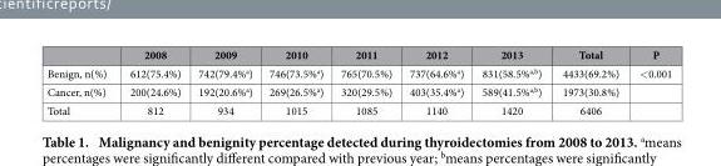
<table><thead><tr><td></td><td>2008</td><td>2009</td><td>2010</td><td>2011</td><td>2012</td><td>2013</td><td>Total</td><td>P</td></tr></thead><tbody><tr><td>Benign, n(%)</td><td>612(75.4%)</td><td>742(79.4%<sup>a</sup>)</td><td>746(73.5%<sup>a</sup>)</td><td>765(70.5%)</td><td>737(64.6%<sup>a</sup>)</td><td>831(58.5%<sup>a,b</sup>)</td><td>4433(69.2%)</td><td>&lt; 0.001</td></tr><tr><td>Cancer, n(%)</td><td>200(24.6%)</td><td>192(20.6%<sup>a</sup>)</td><td>269(26.5%<sup>a</sup>)</td><td>320(29.5%)</td><td>403(35.4%<sup>a</sup>)</td><td>589(41.5%<sup>a,b</sup>)</td><td>1973(30.8%)</td><td></td></tr><tr><td>Total</td><td>812</td><td>934</td><td>1015</td><td>1085</td><td>1140</td><td>1420</td><td>6406</td><td></td></tr></tbody></table>